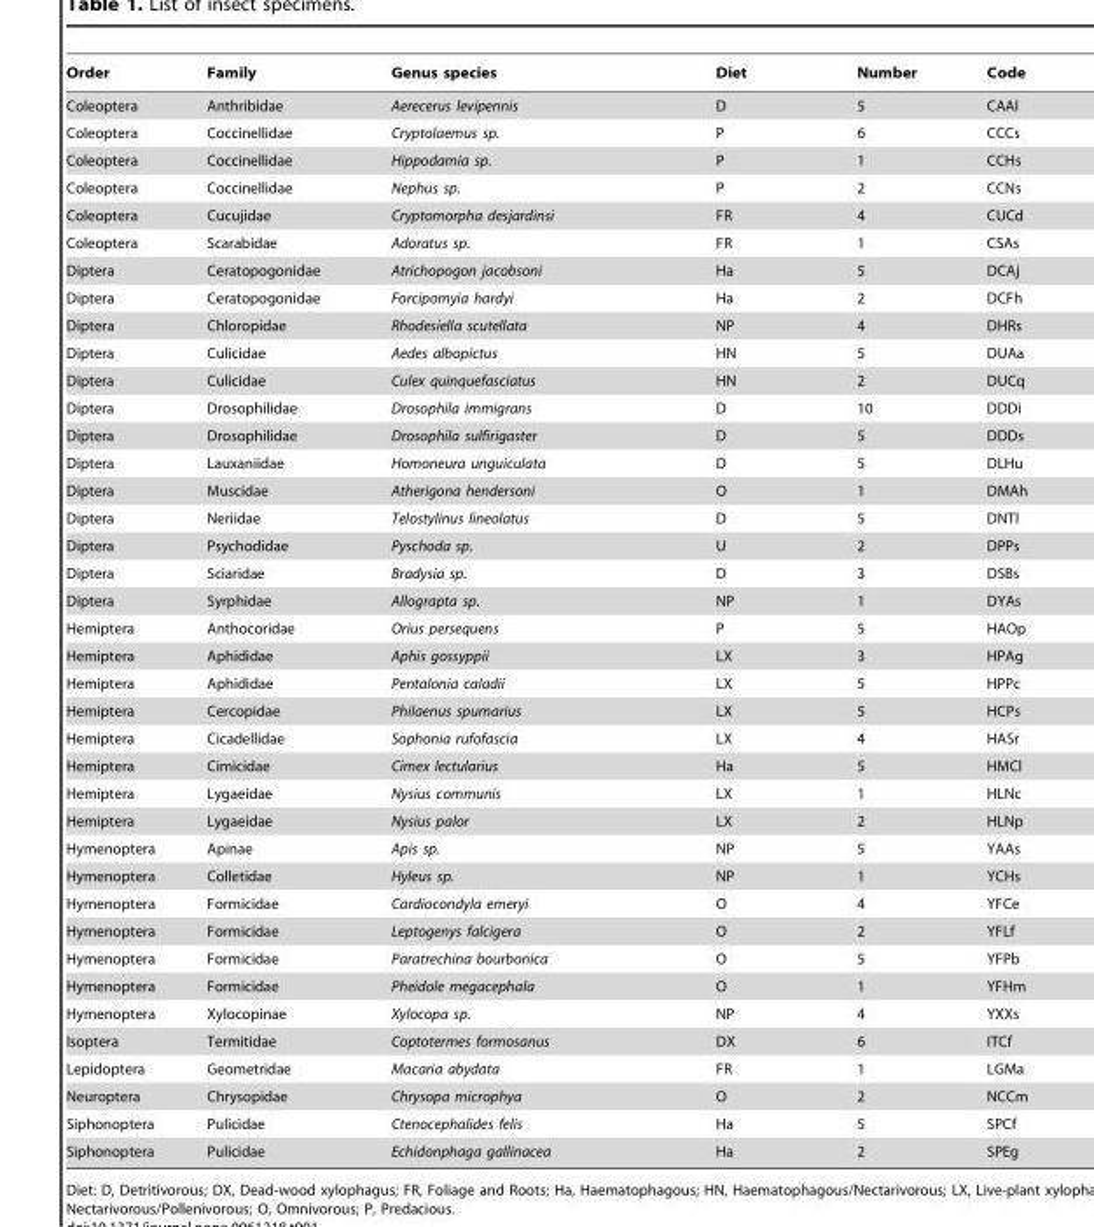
<table><thead><tr><td>Order</td><td>Family</td><td>Genus species</td><td>Diet</td><td>Number</td><td>Code</td></tr></thead><tbody><tr><td>Coleoptera</td><td>Anthribidae</td><td>Aerecerus levipennis</td><td>D</td><td>5</td><td>CAAl</td></tr><tr><td>Coleoptera</td><td>Coccinellidae</td><td>Cryptolaemus sp.</td><td>P</td><td>6</td><td>CCCs</td></tr><tr><td>Coleoptera</td><td>Coccinellidae</td><td>Hippodamia sp.</td><td>P</td><td>1</td><td>CCHs</td></tr><tr><td>Coleoptera</td><td>Coccinellidae</td><td>Nephus sp.</td><td>P</td><td>2</td><td>CCNs</td></tr><tr><td>Coleoptera</td><td>Cucujidae</td><td>Cryptomorpha desjardinsi</td><td>FR</td><td>4</td><td>CUCd</td></tr><tr><td>Coleoptera</td><td>Scarabidae</td><td>Adoratus sp.</td><td>FR</td><td>1</td><td>CSAs</td></tr><tr><td>Diptera</td><td>Ceratopogonidae</td><td>Atrichopogon jacobsoni</td><td>Ha</td><td>5</td><td>DCAj</td></tr><tr><td>Diptera</td><td>Ceratopogonidae</td><td>Forcipomyia hardyi</td><td>Ha</td><td>2</td><td>DCFh</td></tr><tr><td>Diptera</td><td>Chloropidae</td><td>Rhodesiella scutellata</td><td>NP</td><td>4</td><td>DHRs</td></tr><tr><td>Diptera</td><td>Culicidae</td><td>Aedes albopictus</td><td>HN</td><td>5</td><td>DUAa</td></tr><tr><td>Diptera</td><td>Culicidae</td><td>Culex quinquefasciatus</td><td>HN</td><td>2</td><td>DUCq</td></tr><tr><td>Diptera</td><td>Drosophilidae</td><td>Drosophila immigrans</td><td>D</td><td>10</td><td>DDDi</td></tr><tr><td>Diptera</td><td>Drosophilidae</td><td>Drosophila sulfirigaster</td><td>D</td><td>5</td><td>DDDs</td></tr><tr><td>Diptera</td><td>Lauxaniidae</td><td>Homoneura unguiculata</td><td>D</td><td>5</td><td>DLHu</td></tr><tr><td>Diptera</td><td>Muscidae</td><td>Atherigona hendersoni</td><td>O</td><td>1</td><td>DMAh</td></tr><tr><td>Diptera</td><td>Neriidae</td><td>Telostylinus lineolatus</td><td>D</td><td>5</td><td>DNTl</td></tr><tr><td>Diptera</td><td>Psychodidae</td><td>Pyschoda sp.</td><td>U</td><td>2</td><td>DPPs</td></tr><tr><td>Diptera</td><td>Sciaridae</td><td>Bradysia sp.</td><td>D</td><td>3</td><td>DSBs</td></tr><tr><td>Diptera</td><td>Syrphidae</td><td>Allograpta sp.</td><td>NP</td><td>1</td><td>DYAs</td></tr><tr><td>Hemiptera</td><td>Anthocoridae</td><td>Orius persequens</td><td>P</td><td>5</td><td>HAOp</td></tr><tr><td>Hemiptera</td><td>Aphididae</td><td>Aphis gossyppii</td><td>LX</td><td>3</td><td>HPAg</td></tr><tr><td>Hemiptera</td><td>Aphididae</td><td>Pentalonia caladii</td><td>LX</td><td>5</td><td>HPPc</td></tr><tr><td>Hemiptera</td><td>Cercopidae</td><td>Philaenus spumarius</td><td>LX</td><td>5</td><td>HCPs</td></tr><tr><td>Hemiptera</td><td>Cicadellidae</td><td>Sophonia rufofascia</td><td>LX</td><td>4</td><td>HASr</td></tr><tr><td>Hemiptera</td><td>Cimicidae</td><td>Cimex lectularius</td><td>Ha</td><td>5</td><td>HMCl</td></tr><tr><td>Hemiptera</td><td>Lygaeidae</td><td>Nysius communis</td><td>LX</td><td>1</td><td>HLNc</td></tr><tr><td>Hemiptera</td><td>Lygaeidae</td><td>Nysius palor</td><td>LX</td><td>2</td><td>HLNp</td></tr><tr><td>Hymenoptera</td><td>Apinae</td><td>Apis sp.</td><td>NP</td><td>5</td><td>YAAs</td></tr><tr><td>Hymenoptera</td><td>Colletidae</td><td>Hyleus sp.</td><td>NP</td><td>1</td><td>YCHs</td></tr><tr><td>Hymenoptera</td><td>Formicidae</td><td>Cardiocondyla emeryi</td><td>O</td><td>4</td><td>YFCe</td></tr><tr><td>Hymenoptera</td><td>Formicidae</td><td>Leptogenys falcigera</td><td>O</td><td>2</td><td>YFLf</td></tr><tr><td>Hymenoptera</td><td>Formicidae</td><td>Paratrechina bourbonica</td><td>O</td><td>5</td><td>YFPb</td></tr><tr><td>Hymenoptera</td><td>Formicidae</td><td>Pheidole megacephala</td><td>O</td><td>1</td><td>YFHm</td></tr><tr><td>Hymenoptera</td><td>Xylocopinae</td><td>Xylocopa sp.</td><td>NP</td><td>4</td><td>YXXs</td></tr><tr><td>Isoptera</td><td>Termitidae</td><td>Coptotermes formosanus</td><td>DX</td><td>6</td><td>ITCf</td></tr><tr><td>Lepidoptera</td><td>Geometridae</td><td>Macaria abydata</td><td>FR</td><td>1</td><td>LGMa</td></tr><tr><td>Neuroptera</td><td>Chrysopidae</td><td>Chrysopa microphya</td><td>O</td><td>2</td><td>NCCm</td></tr><tr><td>Siphonoptera</td><td>Pulicidae</td><td>Ctenocephalides felis</td><td>Ha</td><td>5</td><td>SPCf</td></tr><tr><td>Siphonoptera</td><td>Pulicidae</td><td>Echidonphaga gallinacea</td><td>Ha</td><td>2</td><td>SPEg</td></tr></tbody></table>